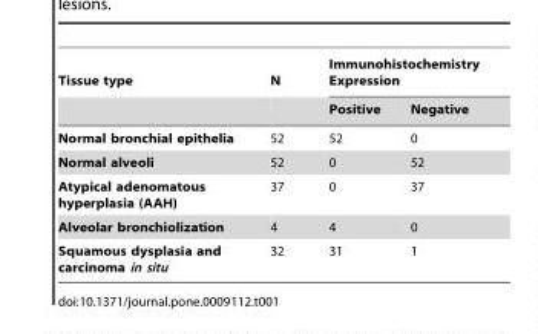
<table><thead><tr><td rowspan="2">Tissue type</td><td rowspan="2">N</td><td colspan="2">Immunohistochemistry Expression</td></tr><tr><td>Positive</td><td>Negative</td></tr></thead><tbody><tr><td>Normal bronchial epithelia</td><td>52</td><td>52</td><td>0</td></tr><tr><td>Normal alveoli</td><td>52</td><td>0</td><td>52</td></tr><tr><td>Atypical adenomatous hyperplasia (AAH)</td><td>37</td><td>0</td><td>37</td></tr><tr><td>Alveolar bronchiolization</td><td>4</td><td>4</td><td>0</td></tr><tr><td>Squamous dysplasia and carcinoma in situ</td><td>32</td><td>31</td><td>1</td></tr></tbody></table>